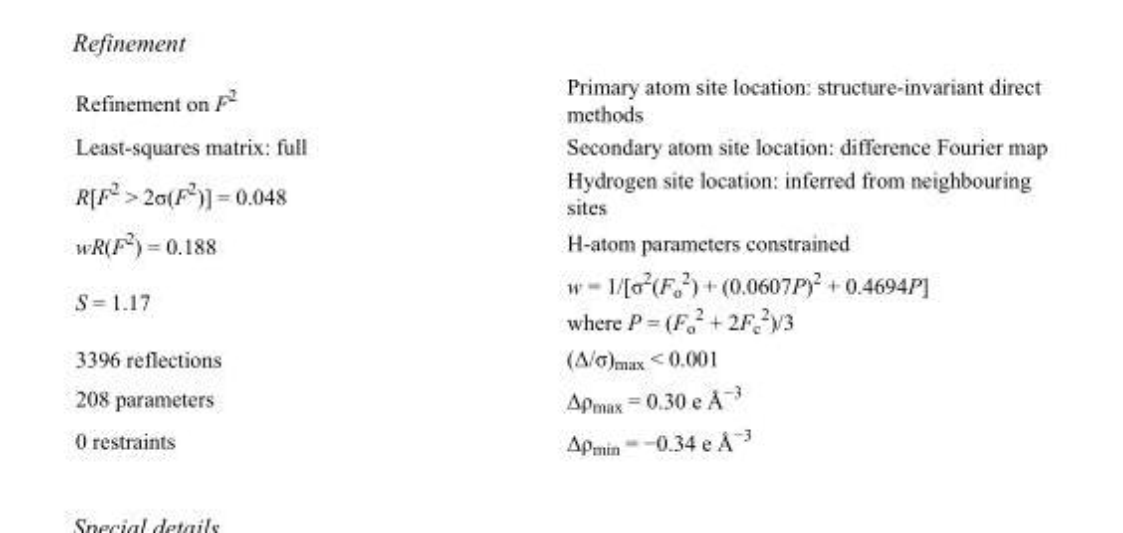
<table><tbody><tr><td>Refinement on F<sup>2</sup></td><td>Primary atom site location: structure-invariant direct methods</td></tr><tr><td>Least-squares matrix: full</td><td>Secondary atom site location: difference Fourier map</td></tr><tr><td>R[F<sup>2</sup> &gt; 2σ(F<sup>2</sup>)] = 0.048</td><td>Hydrogen site location: inferred from neighbouring sites</td></tr><tr><td>wR(F<sup>2</sup>) = 0.188</td><td>H-atom parameters constrained</td></tr><tr><td>S = 1.17</td><td>w = 1/[σ<sup>2</sup>(F<sub>o</sub> <sup>2</sup>) + (0.0607P)<sup>2</sup> + 0.4694P] where P = (F<sub>o</sub> <sup>2</sup> + 2F<sub>c</sub> <sup>2</sup>)/3</td></tr><tr><td>3396 reflections</td><td>(Δ/σ)<sub>max</sub> &lt; 0.001</td></tr><tr><td>208 parameters</td><td>Δρ<sub>max</sub> = 0.30 e Å<sup>−3</sup></td></tr><tr><td>0 restraints</td><td>Δρ<sub>min</sub> = −0.34 e Å<sup>−3</sup></td></tr></tbody></table>